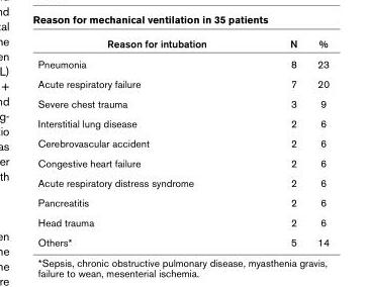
<table><thead><tr><td>Reason for intubation</td><td>N</td><td>%</td></tr></thead><tbody><tr><td>Pneumonia</td><td>8</td><td>23</td></tr><tr><td>Acute respiratory failure</td><td>7</td><td>20</td></tr><tr><td>Severe chest trauma</td><td>3</td><td>9</td></tr><tr><td>Interstitial lung disease</td><td>2</td><td>6</td></tr><tr><td>Cerebrovascular accident</td><td>2</td><td>6</td></tr><tr><td>Congestive heart failure</td><td>2</td><td>6</td></tr><tr><td>Acute respiratory distress syndrome</td><td>2</td><td>6</td></tr><tr><td>Pancreatitis</td><td>2</td><td>6</td></tr><tr><td>Head trauma</td><td>2</td><td>6</td></tr><tr><td>Others*</td><td>5</td><td>14</td></tr></tbody></table>